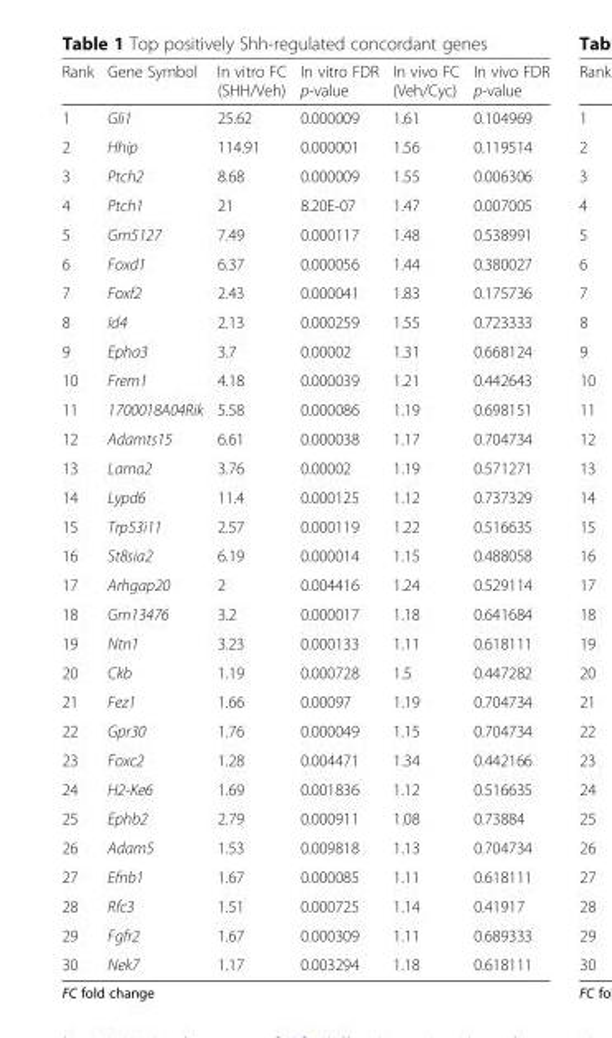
<table><thead><tr><td>Rank</td><td>Gene Symbol</td><td>In vitro FC (SHH/Veh)</td><td>In vitro FDR p-value</td><td>In vivo FC (Veh/Cyc)</td><td>In vivo FDR p-value</td></tr></thead><tbody><tr><td>1</td><td>Gli1</td><td>25.62</td><td>0.000009</td><td>1.61</td><td>0.104969</td></tr><tr><td>2</td><td>Hhip</td><td>114.91</td><td>0.000001</td><td>1.56</td><td>0.119514</td></tr><tr><td>3</td><td>Ptch2</td><td>8.68</td><td>0.000009</td><td>1.55</td><td>0.006306</td></tr><tr><td>4</td><td>Ptch1</td><td>21</td><td>8.20E-07</td><td>1.47</td><td>0.007005</td></tr><tr><td>5</td><td>Gm5127</td><td>7.49</td><td>0.000117</td><td>1.48</td><td>0.538991</td></tr><tr><td>6</td><td>Foxd1</td><td>6.37</td><td>0.000056</td><td>1.44</td><td>0.380027</td></tr><tr><td>7</td><td>Foxf2</td><td>2.43</td><td>0.000041</td><td>1.83</td><td>0.175736</td></tr><tr><td>8</td><td>Id4</td><td>2.13</td><td>0.000259</td><td>1.55</td><td>0.723333</td></tr><tr><td>9</td><td>Epha3</td><td>3.7</td><td>0.00002</td><td>1.31</td><td>0.668124</td></tr><tr><td>10</td><td>Frem1</td><td>4.18</td><td>0.000039</td><td>1.21</td><td>0.442643</td></tr><tr><td>11</td><td>1700018A04Rik</td><td>5.58</td><td>0.000086</td><td>1.19</td><td>0.698151</td></tr><tr><td>12</td><td>Adamts15</td><td>6.61</td><td>0.000038</td><td>1.17</td><td>0.704734</td></tr><tr><td>13</td><td>Lama2</td><td>3.76</td><td>0.00002</td><td>1.19</td><td>0.571271</td></tr><tr><td>14</td><td>Lypd6</td><td>11.4</td><td>0.000125</td><td>1.12</td><td>0.737329</td></tr><tr><td>15</td><td>Trp53i11</td><td>2.57</td><td>0.000119</td><td>1.22</td><td>0.516635</td></tr><tr><td>16</td><td>St8sia2</td><td>6.19</td><td>0.000014</td><td>1.15</td><td>0.488058</td></tr><tr><td>17</td><td>Arhgap20</td><td>2</td><td>0.004416</td><td>1.24</td><td>0.529114</td></tr><tr><td>18</td><td>Gm13476</td><td>3.2</td><td>0.000017</td><td>1.18</td><td>0.641684</td></tr><tr><td>19</td><td>Ntn1</td><td>3.23</td><td>0.000133</td><td>1.11</td><td>0.618111</td></tr><tr><td>20</td><td>Ckb</td><td>1.19</td><td>0.000728</td><td>1.5</td><td>0.447282</td></tr><tr><td>21</td><td>Fez1</td><td>1.66</td><td>0.00097</td><td>1.19</td><td>0.704734</td></tr><tr><td>22</td><td>Gpr30</td><td>1.76</td><td>0.000049</td><td>1.15</td><td>0.704734</td></tr><tr><td>23</td><td>Foxc2</td><td>1.28</td><td>0.004471</td><td>1.34</td><td>0.442166</td></tr><tr><td>24</td><td>H2-Ke6</td><td>1.69</td><td>0.001836</td><td>1.12</td><td>0.516635</td></tr><tr><td>25</td><td>Ephb2</td><td>2.79</td><td>0.000911</td><td>1.08</td><td>0.73884</td></tr><tr><td>26</td><td>Adam5</td><td>1.53</td><td>0.009818</td><td>1.13</td><td>0.704734</td></tr><tr><td>27</td><td>Efnb1</td><td>1.67</td><td>0.000085</td><td>1.11</td><td>0.618111</td></tr><tr><td>28</td><td>Rfc3</td><td>1.51</td><td>0.000725</td><td>1.14</td><td>0.41917</td></tr><tr><td>29</td><td>Fgfr2</td><td>1.67</td><td>0.000309</td><td>1.11</td><td>0.689333</td></tr><tr><td>30</td><td>Nek7</td><td>1.17</td><td>0.003294</td><td>1.18</td><td>0.618111</td></tr></tbody></table>